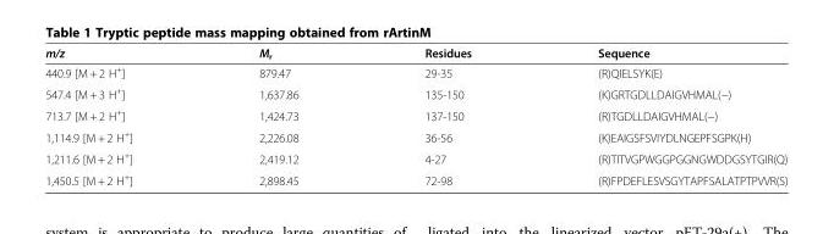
<table><thead><tr><td>m/z</td><td>M<sub>r</sub></td><td>Residues</td><td>Sequence</td></tr></thead><tbody><tr><td>440.9 [M + 2 H<sup>+</sup>]</td><td>879.47</td><td>29-35</td><td>(R)QIELSYK(E)</td></tr><tr><td>547.4 [M + 3 H<sup>+</sup>]</td><td>1,637.86</td><td>135-150</td><td>(K)GRTGDLLDAIGVHMAL(−)</td></tr><tr><td>713.7 [M + 2 H<sup>+</sup>]</td><td>1,424.73</td><td>137-150</td><td>(R)TGDLLDAIGVHMAL(−)</td></tr><tr><td>1,114.9 [M + 2 H<sup>+</sup>]</td><td>2,226.08</td><td>36-56</td><td>(K)EAIGSFSVIYDLNGEPFSGPK(H)</td></tr><tr><td>1,211.6 [M + 2 H<sup>+</sup>]</td><td>2,419.12</td><td>4-27</td><td>(R)TITVGPWGGPGGNGWDDGSYTGIR(Q)</td></tr><tr><td>1,450.5 [M + 2 H<sup>+</sup>]</td><td>2,898.45</td><td>72-98</td><td>(R)FPDEFLESVSGYTAPFSALATPTPVVR(S)</td></tr></tbody></table>